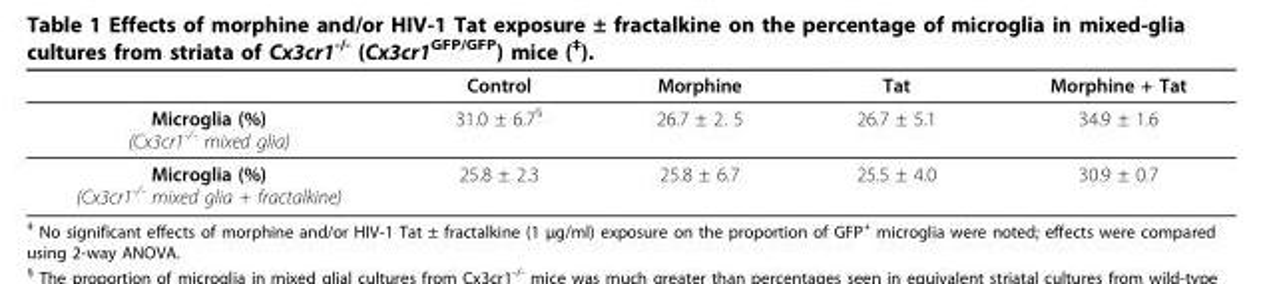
<table><thead><tr><td></td><td>Control</td><td>Morphine</td><td>Tat</td><td>Morphine + Tat</td></tr></thead><tbody><tr><td>Microglia (%) (Cx3cr1<sup>-/-</sup> mixed glia)</td><td>31.0 ± 6.7<sup>§</sup></td><td>26.7 ± 2. 5</td><td>26.7 ± 5.1</td><td>34.9 ± 1.6</td></tr><tr><td>Microglia (%) (Cx3cr1<sup>-/-</sup> mixed glia + fractalkine)</td><td>25.8 ± 2.3</td><td>25.8 ± 6.7</td><td>25.5 ± 4.0</td><td>30.9 ± 0.7</td></tr></tbody></table>